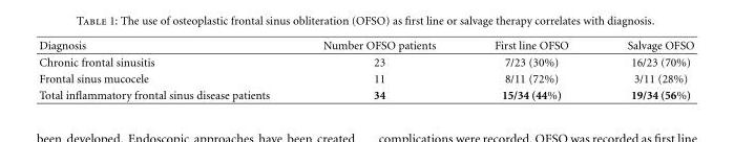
<table><thead><tr><td>Diagnosis</td><td>Number OFSO patients</td><td>First line OFSO</td><td>Salvage OFSO</td></tr></thead><tbody><tr><td>Chronic frontal sinusitis</td><td>23</td><td>7/23 (30%)</td><td>16/23 (70%)</td></tr><tr><td>Frontal sinus mucocele</td><td>11</td><td>8/11 (72%)</td><td>3/11 (28%)</td></tr><tr><td>Total inflammatory frontal sinus disease patients</td><td>34</td><td>15/34 (44%)</td><td>19/34 (56%)</td></tr></tbody></table>